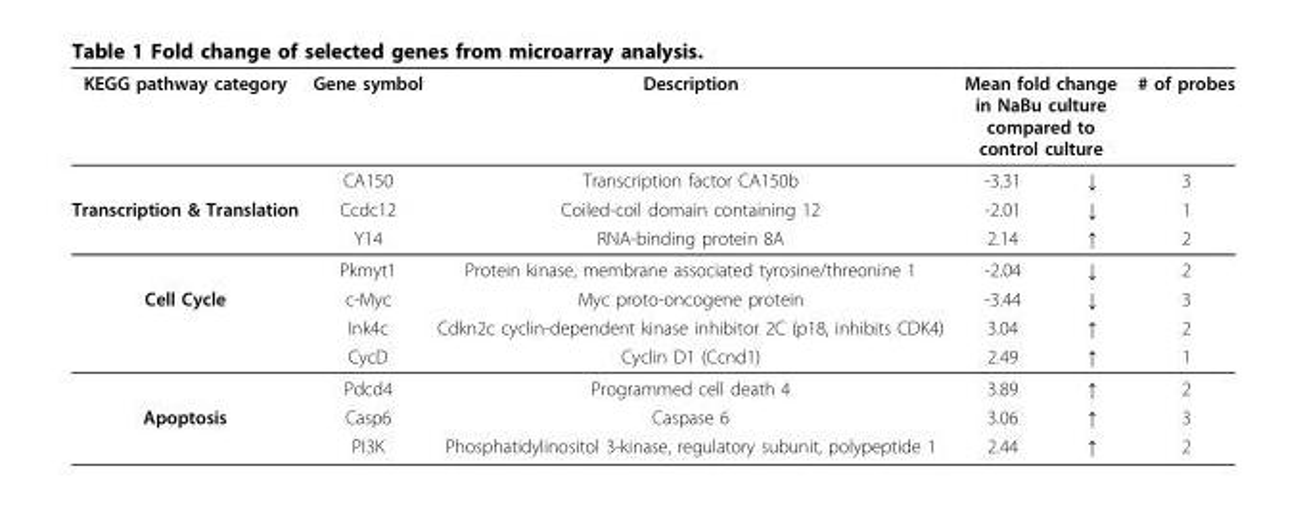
<table><thead><tr><td rowspan="2">KEGG pathway category</td><td rowspan="2">Gene symbol CA150</td><td rowspan="2">Description Transcription factor CA150b</td><td colspan="2">Mean fold change in NaBu culture compared to control culture</td><td rowspan="2"># of probes 3</td></tr><tr><td>-3.31</td><td>↓</td></tr></thead><tbody><tr><td rowspan="3">Transcription &amp; Translation</td><td>Ccdc12</td><td>Coiled-coil domain containing 12</td><td>-2.01</td><td>↓</td><td>1</td></tr><tr><td>Y14</td><td>RNA-binding protein 8A</td><td>2.14</td><td>↑</td><td>2</td></tr><tr><td>Pkmyt1</td><td>Protein kinase, membrane associated tyrosine/threonine 1</td><td>-2.04</td><td>↓</td><td>2</td></tr><tr><td rowspan="4">Cell Cycle</td><td>c-Myc</td><td>Myc proto-oncogene protein</td><td>-3.44</td><td>↓</td><td>3</td></tr><tr><td>Ink4c</td><td>Cdkn2c cyclin-dependent kinase inhibitor 2C (p18, inhibits CDK4)</td><td>3.04</td><td>↑</td><td>2</td></tr><tr><td>CycD</td><td>Cyclin D1 (Ccnd1)</td><td>2.49</td><td>↑</td><td>1</td></tr><tr><td>Pdcd4</td><td>Programmed cell death 4</td><td>3.89</td><td>↑</td><td>2</td></tr><tr><td rowspan="2">Apoptosis</td><td>Casp6</td><td>Caspase 6</td><td>3.06</td><td>↑</td><td>3</td></tr><tr><td>PI3K</td><td>Phosphatidylinositol 3-kinase, regulatory subunit, polypeptide 1</td><td>2.44</td><td>↑</td><td>2</td></tr></tbody></table>